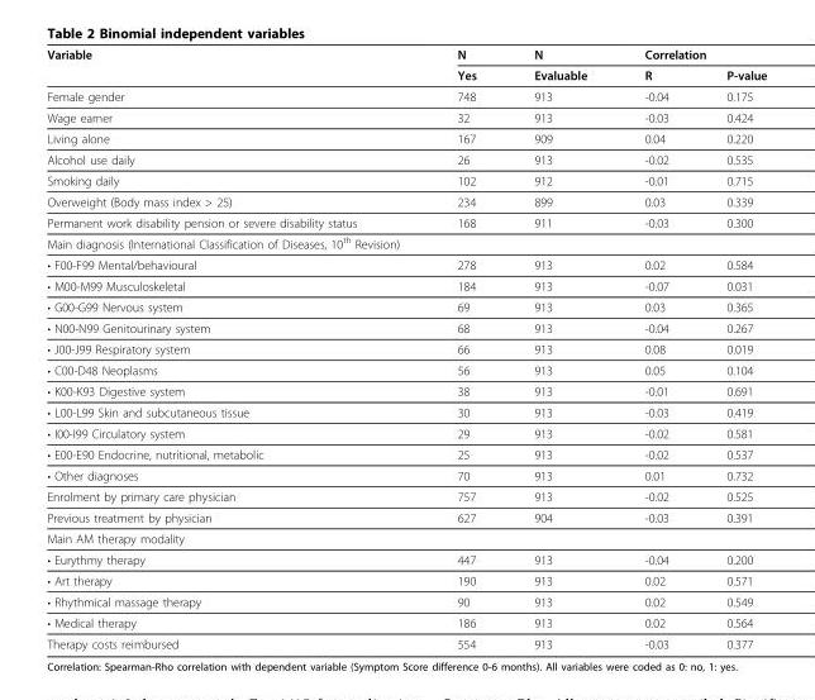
<table><thead><tr><td rowspan="2">Variable</td><td rowspan="2">N Yes</td><td rowspan="2">N Evaluable</td><td colspan="2">Correlation</td></tr><tr><td>R</td><td>P-value</td></tr></thead><tbody><tr><td>Female gender</td><td>748</td><td>913</td><td>-0.04</td><td>0.175</td></tr><tr><td>Wage earner</td><td>32</td><td>913</td><td>-0.03</td><td>0.424</td></tr><tr><td>Living alone</td><td>167</td><td>909</td><td>0.04</td><td>0.220</td></tr><tr><td>Alcohol use daily</td><td>26</td><td>913</td><td>-0.02</td><td>0.535</td></tr><tr><td>Smoking daily</td><td>102</td><td>912</td><td>-0.01</td><td>0.715</td></tr><tr><td>Overweight (Body mass index &gt; 25)</td><td>234</td><td>899</td><td>0.03</td><td>0.339</td></tr><tr><td>Permanent work disability pension or severe disability status</td><td>168</td><td>911</td><td>-0.03</td><td>0.300</td></tr><tr><td colspan="5">Main diagnosis (International Classification of Diseases, 10<sup>th</sup> Revision)</td></tr><tr><td>• F00-F99 Mental/behavioural</td><td>278</td><td>913</td><td>0.02</td><td>0.584</td></tr><tr><td>• M00-M99 Musculoskeletal</td><td>184</td><td>913</td><td>-0.07</td><td>0.031</td></tr><tr><td>• G00-G99 Nervous system</td><td>69</td><td>913</td><td>0.03</td><td>0.365</td></tr><tr><td>• N00-N99 Genitourinary system</td><td>68</td><td>913</td><td>-0.04</td><td>0.267</td></tr><tr><td>• J00-J99 Respiratory system</td><td>66</td><td>913</td><td>0.08</td><td>0.019</td></tr><tr><td>• C00-D48 Neoplasms</td><td>56</td><td>913</td><td>0.05</td><td>0.104</td></tr><tr><td>• K00-K93 Digestive system</td><td>38</td><td>913</td><td>-0.01</td><td>0.691</td></tr><tr><td>• L00-L99 Skin and subcutaneous tissue</td><td>30</td><td>913</td><td>-0.03</td><td>0.419</td></tr><tr><td>• I00-I99 Circulatory system</td><td>29</td><td>913</td><td>-0.02</td><td>0.581</td></tr><tr><td>• E00-E90 Endocrine, nutritional, metabolic</td><td>25</td><td>913</td><td>-0.02</td><td>0.537</td></tr><tr><td>• Other diagnoses</td><td>70</td><td>913</td><td>0.01</td><td>0.732</td></tr><tr><td>Enrolment by primary care physician</td><td>757</td><td>913</td><td>-0.02</td><td>0.525</td></tr><tr><td>Previous treatment by physician</td><td>627</td><td>904</td><td>-0.03</td><td>0.391</td></tr><tr><td colspan="5">Main AM therapy modality</td></tr><tr><td>• Eurythmy therapy</td><td>447</td><td>913</td><td>-0.04</td><td>0.200</td></tr><tr><td>• Art therapy</td><td>190</td><td>913</td><td>0.02</td><td>0.571</td></tr><tr><td>• Rhythmical massage therapy</td><td>90</td><td>913</td><td>0.02</td><td>0.549</td></tr><tr><td>• Medical therapy</td><td>186</td><td>913</td><td>0.02</td><td>0.564</td></tr><tr><td>Therapy costs reimbursed</td><td>554</td><td>913</td><td>-0.03</td><td>0.377</td></tr></tbody></table>